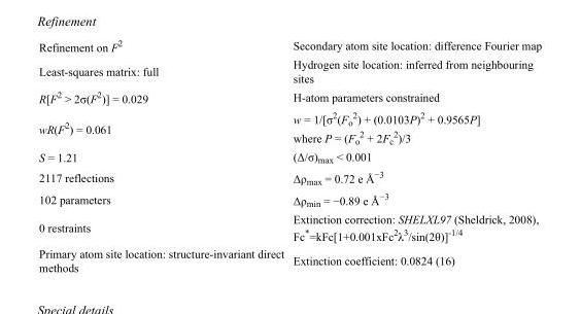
<table><tbody><tr><td>Refinement on F<sup>2</sup></td><td>Secondary atom site location: difference Fourier map</td></tr><tr><td>Least-squares matrix: full</td><td>Hydrogen site location: inferred from neighbouring sites</td></tr><tr><td>R[F<sup>2</sup> &gt; 2σ(F<sup>2</sup>)] = 0.029</td><td>H-atom parameters constrained</td></tr><tr><td>wR(F<sup>2</sup>) = 0.061</td><td>w = 1/[σ<sup>2</sup>(F<sub>o</sub> <sup>2</sup>) + (0.0103P)<sup>2</sup> + 0.9565P] where P = (F<sub>o</sub> <sup>2</sup> + 2F<sub>c</sub> <sup>2</sup>)/3</td></tr><tr><td>S = 1.21</td><td>(Δ/σ)<sub>max</sub> &lt; 0.001</td></tr><tr><td>2117 reflections</td><td>Δρ<sub>max</sub> = 0.72 e Å<sup>−3</sup></td></tr><tr><td>102 parameters</td><td>Δρ<sub>min</sub> = −0.89 e Å<sup>−3</sup></td></tr><tr><td>0 restraints</td><td>Extinction correction: SHELXL97 (Sheldrick, 2008), Fc*=kFc[1+0.001xFc<sup>2</sup>λ<sup>3</sup>/sin(2θ)]<sup>-1/4</sup></td></tr><tr><td>Primary atom site location: structure-invariant direct methods</td><td>Extinction coefficient: 0.0824 (16)</td></tr></tbody></table>